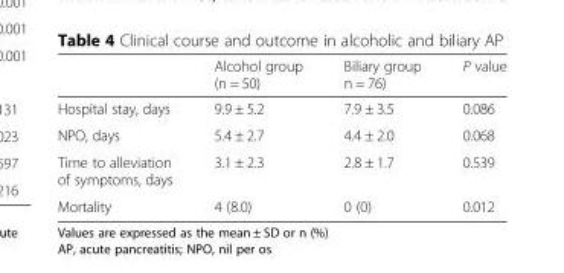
<table><thead><tr><td></td><td>Alcohol group (n = 50)</td><td>Biliary group n = 76)</td><td>P value</td></tr></thead><tbody><tr><td>Hospital stay, days</td><td>9.9 ± 5.2</td><td>7.9 ± 3.5</td><td>0.086</td></tr><tr><td>NPO, days</td><td>5.4 ± 2.7</td><td>4.4 ± 2.0</td><td>0.068</td></tr><tr><td>Time to alleviation of symptoms, days</td><td>3.1 ± 2.3</td><td>2.8 ± 1.7</td><td>0.539</td></tr><tr><td>Mortality</td><td>4 (8.0)</td><td>0 (0)</td><td>0.012</td></tr></tbody></table>